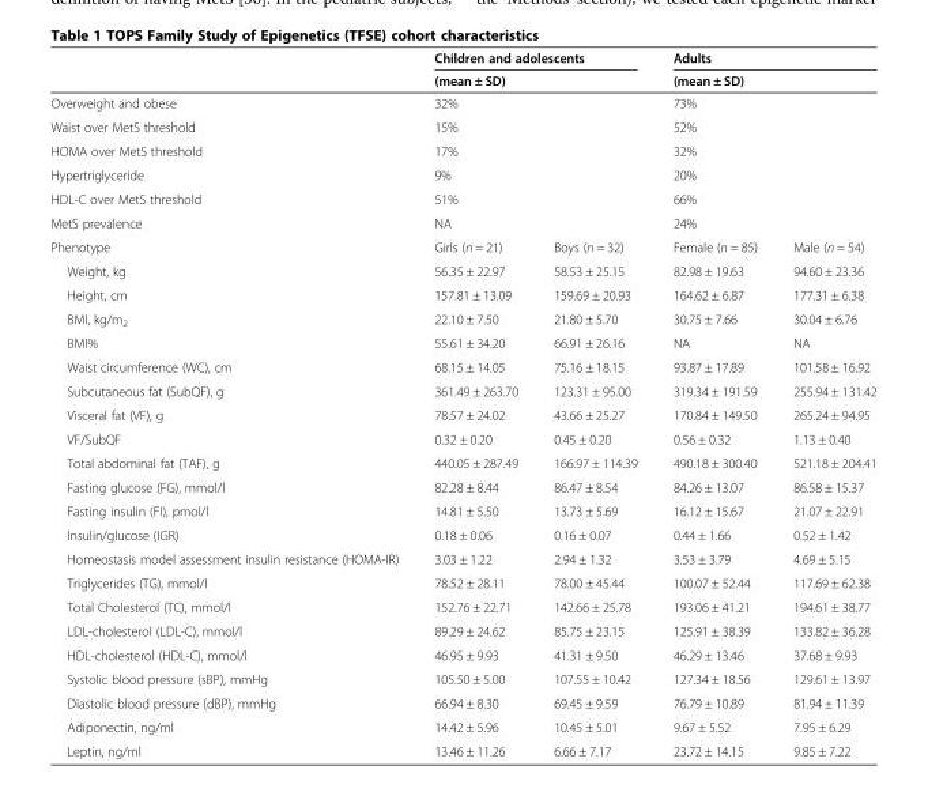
<table><thead><tr><td rowspan="2"></td><td rowspan="2" colspan="2">Children and adolescents (mean ± SD)</td><td rowspan="2" colspan="2">Adults (mean ± SD)</td></tr><tr></tr></thead><tbody><tr><td>Overweight and obese</td><td colspan="2">32%</td><td colspan="2">73%</td></tr><tr><td>Waist over MetS threshold</td><td colspan="2">15%</td><td colspan="2">52%</td></tr><tr><td>HOMA over MetS threshold</td><td colspan="2">17%</td><td colspan="2">32%</td></tr><tr><td>Hypertriglyceride</td><td colspan="2">9%</td><td colspan="2">20%</td></tr><tr><td>HDL-C over MetS threshold</td><td colspan="2">51%</td><td colspan="2">66%</td></tr><tr><td>MetS prevalence</td><td colspan="2">NA</td><td colspan="2">24%</td></tr><tr><td>Phenotype</td><td>Girls (n = 21)</td><td>Boys (n = 32)</td><td>Female (n = 85)</td><td>Male (n = 54)</td></tr><tr><td>Weight, kg</td><td>56.35 ± 22.97</td><td>58.53 ± 25.15</td><td>82.98 ± 19.63</td><td>94.60 ± 23.36</td></tr><tr><td>Height, cm</td><td>157.81 ± 13.09</td><td>159.69 ± 20.93</td><td>164.62 ± 6.87</td><td>177.31 ± 6.38</td></tr><tr><td>BMI, kg/m<sub>2</sub></td><td>22.10 ± 7.50</td><td>21.80 ± 5.70</td><td>30.75 ± 7.66</td><td>30.04 ± 6.76</td></tr><tr><td>BMI%</td><td>55.61 ± 34.20</td><td>66.91 ± 26.16</td><td>NA</td><td>NA</td></tr><tr><td>Waist circumference (WC), cm</td><td>68.15 ± 14.05</td><td>75.16 ± 18.15</td><td>93.87 ± 17.89</td><td>101.58 ± 16.92</td></tr><tr><td>Subcutaneous fat (SubQF), g</td><td>361.49 ± 263.70</td><td>123.31 ± 95.00</td><td>319.34 ± 191.59</td><td>255.94 ± 131.42</td></tr><tr><td>Visceral fat (VF), g</td><td>78.57 ± 24.02</td><td>43.66 ± 25.27</td><td>170.84 ± 149.50</td><td>265.24 ± 94.95</td></tr><tr><td>VF/SubQF</td><td>0.32 ± 0.20</td><td>0.45 ± 0.20</td><td>0.56 ± 0.32</td><td>1.13 ± 0.40</td></tr><tr><td>Total abdominal fat (TAF), g</td><td>440.05 ± 287.49</td><td>166.97 ± 114.39</td><td>490.18 ± 300.40</td><td>521.18 ± 204.41</td></tr><tr><td>Fasting glucose (FG), mmol/l</td><td>82.28 ± 8.44</td><td>86.47 ± 8.54</td><td>84.26 ± 13.07</td><td>86.58 ± 15.37</td></tr><tr><td>Fasting insulin (FI), pmol/l</td><td>14.81 ± 5.50</td><td>13.73 ± 5.69</td><td>16.12 ± 15.67</td><td>21.07 ± 22.91</td></tr><tr><td>Insulin/glucose (IGR)</td><td>0.18 ± 0.06</td><td>0.16 ± 0.07</td><td>0.44 ± 1.66</td><td>0.52 ± 1.42</td></tr><tr><td>Homeostasis model assessment insulin resistance (HOMA-IR)</td><td>3.03 ± 1.22</td><td>2.94 ± 1.32</td><td>3.53 ± 3.79</td><td>4.69 ± 5.15</td></tr><tr><td>Triglycerides (TG), mmol/l</td><td>78.52 ± 28.11</td><td>78.00 ± 45.44</td><td>100.07 ± 52.44</td><td>117.69 ± 62.38</td></tr><tr><td>Total Cholesterol (TC), mmol/l</td><td>152.76 ± 22.71</td><td>142.66 ± 25.78</td><td>193.06 ± 41.21</td><td>194.61 ± 38.77</td></tr><tr><td>LDL-cholesterol (LDL-C), mmol/l</td><td>89.29 ± 24.62</td><td>85.75 ± 23.15</td><td>125.91 ± 38.39</td><td>133.82 ± 36.28</td></tr><tr><td>HDL-cholesterol (HDL-C), mmol/l</td><td>46.95 ± 9.93</td><td>41.31 ± 9.50</td><td>46.29 ± 13.46</td><td>37.68 ± 9.93</td></tr><tr><td>Systolic blood pressure (sBP), mmHg</td><td>105.50 ± 5.00</td><td>107.55 ± 10.42</td><td>127.34 ± 18.56</td><td>129.61 ± 13.97</td></tr><tr><td>Diastolic blood pressure (dBP), mmHg</td><td>66.94 ± 8.30</td><td>69.45 ± 9.59</td><td>76.79 ± 10.89</td><td>81.94 ± 11.39</td></tr><tr><td>Adiponectin, ng/ml</td><td>14.42 ± 5.96</td><td>10.45 ± 5.01</td><td>9.67 ± 5.52</td><td>7.95 ± 6.29</td></tr><tr><td>Leptin, ng/ml</td><td>13.46 ± 11.26</td><td>6.66 ± 7.17</td><td>23.72 ± 14.15</td><td>9.85 ± 7.22</td></tr></tbody></table>